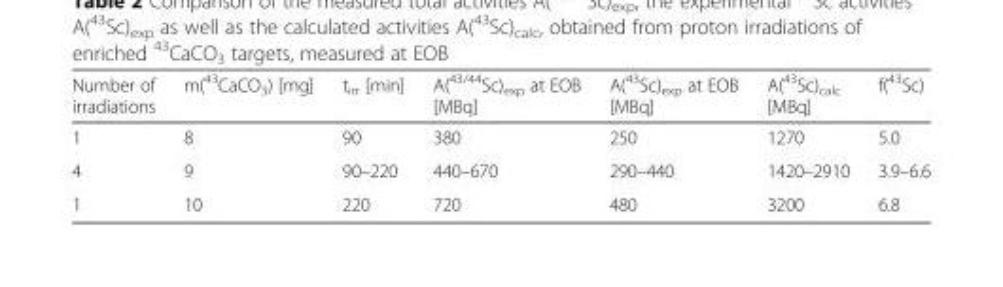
<table><thead><tr><td>Number of irradiations</td><td>m(<sup>43</sup>CaCO<sub>3</sub>) [mg]</td><td>t<sub>irr</sub> [min]</td><td>A(<sup>43/44</sup>Sc)<sub>exp</sub> at EOB [MBq]</td><td>A(<sup>43</sup>Sc)<sub>exp</sub> at EOB [MBq]</td><td>A(<sup>43</sup>Sc)<sub>calc</sub> [MBq]</td><td>f(<sup>43</sup>Sc)</td></tr></thead><tbody><tr><td>1</td><td>8</td><td>90</td><td>380</td><td>250</td><td>1270</td><td>5.0</td></tr><tr><td>4</td><td>9</td><td>90–220</td><td>440–670</td><td>290–440</td><td>1420–2910</td><td>3.9–6.6</td></tr><tr><td>1</td><td>10</td><td>220</td><td>720</td><td>480</td><td>3200</td><td>6.8</td></tr></tbody></table>